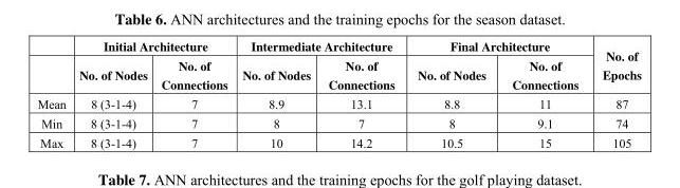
<table><thead><tr><td rowspan="2"></td><td colspan="2">Initial Architecture</td><td colspan="2">Intermediate Architecture</td><td colspan="2">Final Architecture</td><td rowspan="2">No. of Epochs</td></tr><tr><td>No. of Nodes</td><td>No. of Connections</td><td>No. of Nodes</td><td>No. of Connections</td><td>No. of Nodes</td><td>No. of Connections</td></tr></thead><tbody><tr><td>Mean</td><td>8 (3-1-4)</td><td>7</td><td>8.9</td><td>13.1</td><td>8.8</td><td>11</td><td>87</td></tr><tr><td>Min</td><td>8 (3-1-4)</td><td>7</td><td>8</td><td>7</td><td>8</td><td>9.1</td><td>74</td></tr><tr><td>Max</td><td>8 (3-1-4)</td><td>7</td><td>10</td><td>14.2</td><td>10.5</td><td>15</td><td>105</td></tr></tbody></table>